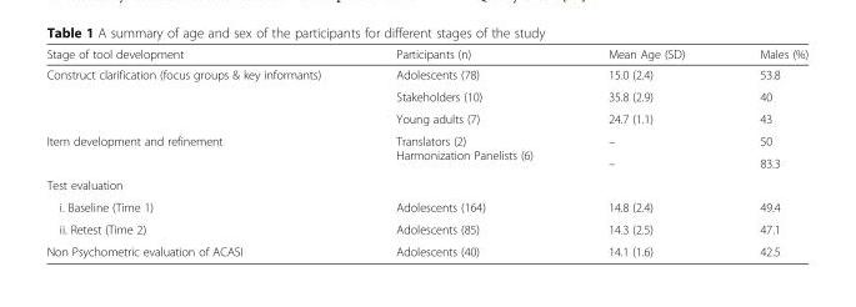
<table><thead><tr><td>Stage of tool development</td><td>Participants (n)</td><td>Mean Age (SD)</td><td>Males (%)</td></tr></thead><tbody><tr><td rowspan="3">Construct clarification (focus groups &amp; key informants)</td><td>Adolescents (78)</td><td>15.0 (2.4)</td><td>53.8</td></tr><tr><td>Stakeholders (10)</td><td>35.8 (2.9)</td><td>40</td></tr><tr><td>Young adults (7)</td><td>24.7 (1.1)</td><td>43</td></tr><tr><td rowspan="2">Item development and refinement</td><td rowspan="2">Translators (2) Harmonization Panelists (6)</td><td>–</td><td>50</td></tr><tr><td>–</td><td>83.3</td></tr><tr><td colspan="4">Test evaluation</td></tr><tr><td>i. Baseline (Time 1)</td><td>Adolescents (164)</td><td>14.8 (2.4)</td><td>49.4</td></tr><tr><td>ii. Retest (Time 2)</td><td>Adolescents (85)</td><td>14.3 (2.5)</td><td>47.1</td></tr><tr><td>Non Psychometric evaluation of ACASI</td><td>Adolescents (40)</td><td>14.1 (1.6)</td><td>42.5</td></tr></tbody></table>